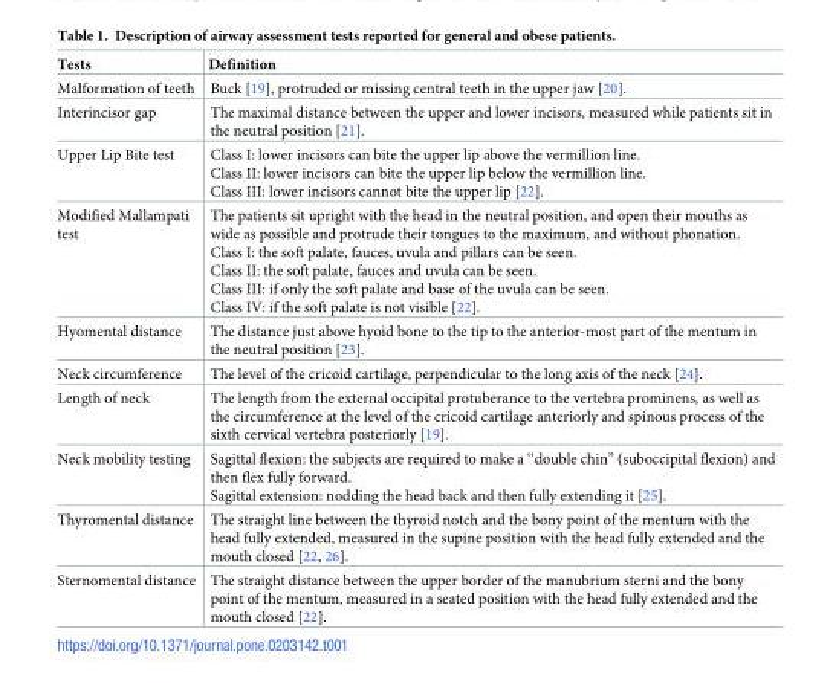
<table><thead><tr><td>Tests</td><td>Definition</td></tr></thead><tbody><tr><td>Malformation of teeth</td><td>Buck [19], protruded or missing central teeth in the upper jaw [20].</td></tr><tr><td>Interincisor gap</td><td>The maximal distance between the upper and lower incisors, measured while patients sit in the neutral position [21].</td></tr><tr><td>Upper Lip Bite test</td><td>Class I: lower incisors can bite the upper lip above the vermillion line. Class II: lower incisors can bite the upper lip below the vermillion line. Class III: lower incisors cannot bite the upper lip [22].</td></tr><tr><td>Modified Mallampati test</td><td>The patients sit upright with the head in the neutral position, and open their mouths as wide as possible and protrude their tongues to the maximum, and without phonation. Class I: the soft palate, fauces, uvula and pillars can be seen. Class II: the soft palate, fauces and uvula can be seen. Class III: if only the soft palate and base of the uvula can be seen. Class IV: if the soft palate is not visible [22].</td></tr><tr><td>Hyomental distance</td><td>The distance just above hyoid bone to the tip to the anterior-most part of the mentum in the neutral position [23].</td></tr><tr><td>Neck circumference</td><td>The level of the cricoid cartilage, perpendicular to the long axis of the neck [24].</td></tr><tr><td>Length of neck</td><td>The length from the external occipital protuberance to the vertebra prominens, as well as the circumference at the level of the cricoid cartilage anteriorly and spinous process of the sixth cervical vertebra posteriorly [19].</td></tr><tr><td>Neck mobility testing</td><td>Sagittal flexion: the subjects are required to make a ‘‘double chin” (suboccipital flexion) and then flex fully forward. Sagittal extension: nodding the head back and then fully extending it [25].</td></tr><tr><td>Thyromental distance</td><td>The straight line between the thyroid notch and the bony point of the mentum with the head fully extended, measured in the supine position with the head fully extended and the mouth closed [22, 26].</td></tr><tr><td>Sternomental distance</td><td>The straight distance between the upper border of the manubrium sterni and the bony point of the mentum, measured in a seated position with the head fully extended and the mouth closed [22].</td></tr></tbody></table>